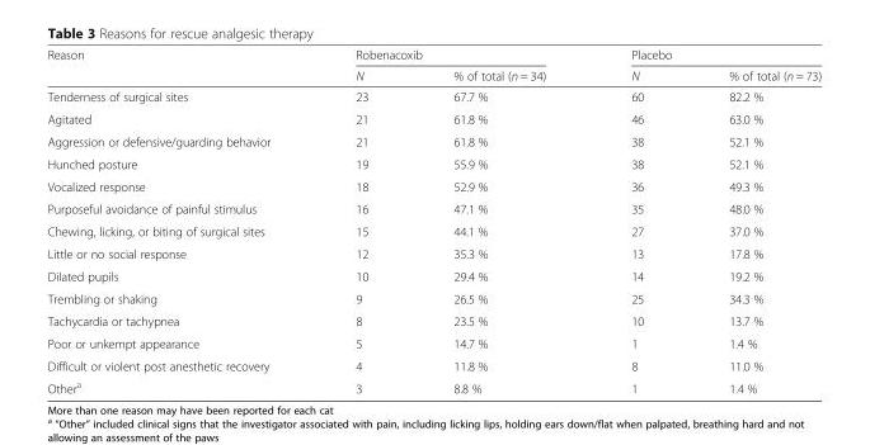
<table><thead><tr><td rowspan="2">Reason</td><td colspan="2">Robenacoxib</td><td colspan="2">Placebo</td></tr><tr><td>N</td><td>% of total (n = 34)</td><td>N</td><td>% of total (n = 73)</td></tr></thead><tbody><tr><td>Tenderness of surgical sites</td><td>23</td><td>67.7 %</td><td>60</td><td>82.2 %</td></tr><tr><td>Agitated</td><td>21</td><td>61.8 %</td><td>46</td><td>63.0 %</td></tr><tr><td>Aggression or defensive/guarding behavior</td><td>21</td><td>61.8 %</td><td>38</td><td>52.1 %</td></tr><tr><td>Hunched posture</td><td>19</td><td>55.9 %</td><td>38</td><td>52.1 %</td></tr><tr><td>Vocalized response</td><td>18</td><td>52.9 %</td><td>36</td><td>49.3 %</td></tr><tr><td>Purposeful avoidance of painful stimulus</td><td>16</td><td>47.1 %</td><td>35</td><td>48.0 %</td></tr><tr><td>Chewing, licking, or biting of surgical sites</td><td>15</td><td>44.1 %</td><td>27</td><td>37.0 %</td></tr><tr><td>Little or no social response</td><td>12</td><td>35.3 %</td><td>13</td><td>17.8 %</td></tr><tr><td>Dilated pupils</td><td>10</td><td>29.4 %</td><td>14</td><td>19.2 %</td></tr><tr><td>Trembling or shaking</td><td>9</td><td>26.5 %</td><td>25</td><td>34.3 %</td></tr><tr><td>Tachycardia or tachypnea</td><td>8</td><td>23.5 %</td><td>10</td><td>13.7 %</td></tr><tr><td>Poor or unkempt appearance</td><td>5</td><td>14.7 %</td><td>1</td><td>1.4 %</td></tr><tr><td>Difficult or violent post anesthetic recovery</td><td>4</td><td>11.8 %</td><td>8</td><td>11.0 %</td></tr><tr><td>Other<sup>a</sup></td><td>3</td><td>8.8 %</td><td>1</td><td>1.4 %</td></tr></tbody></table>